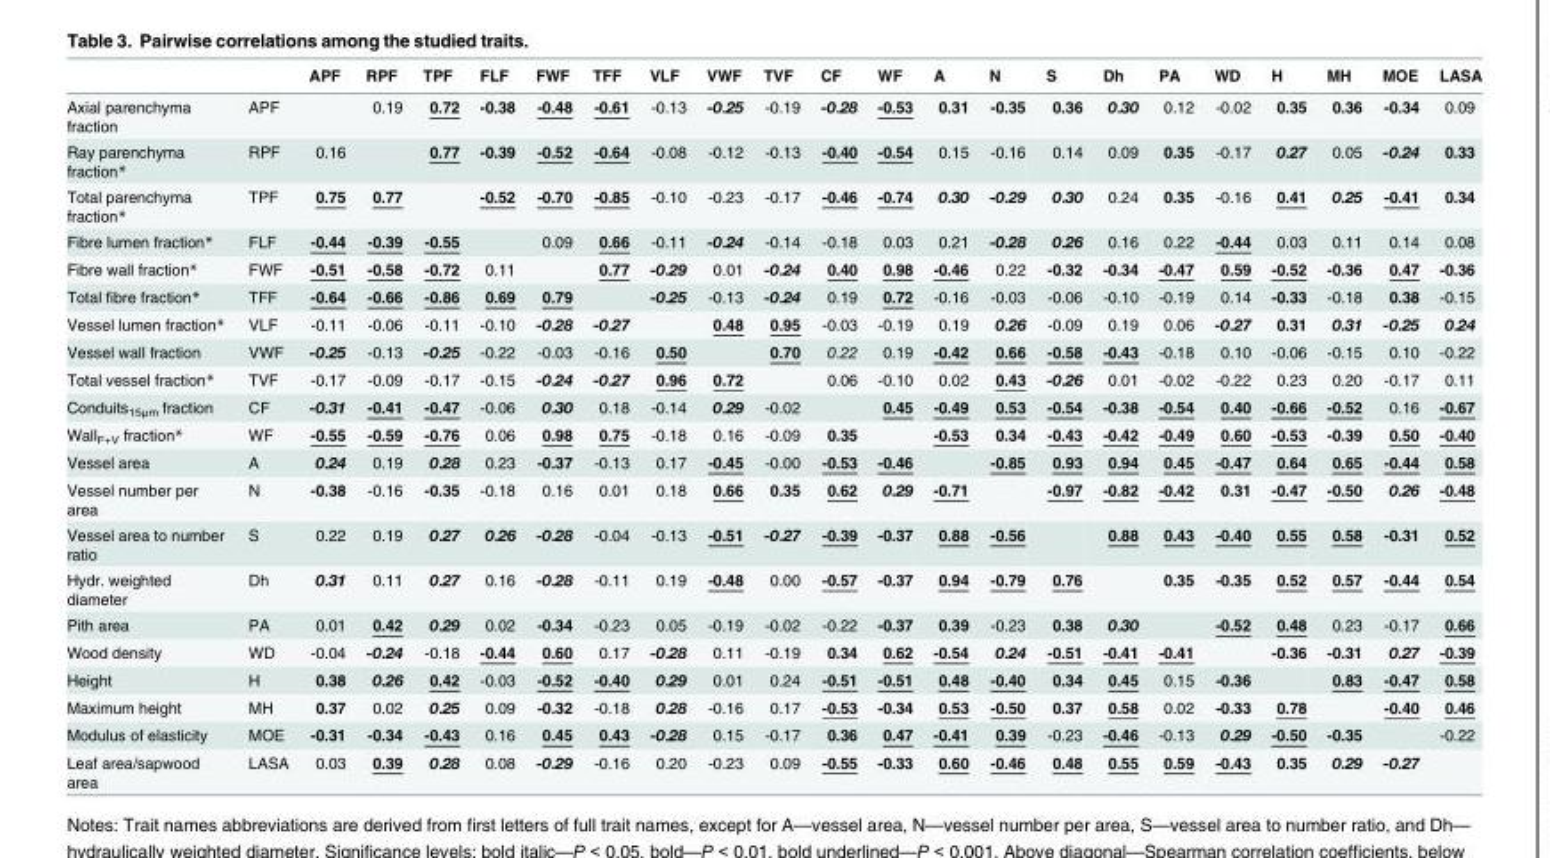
<table><thead><tr><td></td><td></td><td>APF</td><td>RPF</td><td>TPF</td><td>FLF</td><td>FWF</td><td>TFF</td><td>VLF</td><td>VWF</td><td>TVF</td><td>CF</td><td>WF</td><td>A</td><td>N</td><td>S</td><td>Dh</td><td>PA</td><td>WD</td><td>H</td><td>MH</td><td>MOE</td><td>LASA</td></tr></thead><tbody><tr><td>Axial parenchyma fraction</td><td>APF</td><td></td><td>0.19</td><td>0.72</td><td>-0.38</td><td>-0.48</td><td>-0.61</td><td>-0.13</td><td>-0.25</td><td>-0.19</td><td>-0.28</td><td>-0.53</td><td>0.31</td><td>-0.35</td><td>0.36</td><td>0.30</td><td>0.12</td><td>-0.02</td><td>0.35</td><td>0.36</td><td>-0.34</td><td>0.09</td></tr><tr><td>Ray parenchyma fraction*</td><td>RPF</td><td>0.16</td><td></td><td>0.77</td><td>-0.39</td><td>-0.52</td><td>-0.64</td><td>-0.08</td><td>-0.12</td><td>-0.13</td><td>-0.40</td><td>-0.54</td><td>0.15</td><td>-0.16</td><td>0.14</td><td>0.09</td><td>0.35</td><td>-0.17</td><td>0.27</td><td>0.05</td><td>-0.24</td><td>0.33</td></tr><tr><td>Total parenchyma fraction*</td><td>TPF</td><td>0.75</td><td>0.77</td><td></td><td>-0.52</td><td>-0.70</td><td>-0.85</td><td>-0.10</td><td>-0.23</td><td>-0.17</td><td>-0.46</td><td>-0.74</td><td>0.30</td><td>-0.29</td><td>0.30</td><td>0.24</td><td>0.35</td><td>-0.16</td><td>0.41</td><td>0.25</td><td>-0.41</td><td>0.34</td></tr><tr><td>Fibre lumen fraction*</td><td>FLF</td><td>-0.44</td><td>-0.39</td><td>-0.55</td><td></td><td>0.09</td><td>0.66</td><td>-0.11</td><td>-0.24</td><td>-0.14</td><td>-0.18</td><td>0.03</td><td>0.21</td><td>-0.28</td><td>0.26</td><td>0.16</td><td>0.22</td><td>-0.44</td><td>0.03</td><td>0.11</td><td>0.14</td><td>0.08</td></tr><tr><td>Fibre wall fraction*</td><td>FWF</td><td>-0.51</td><td>-0.58</td><td>-0.72</td><td>0.11</td><td></td><td>0.77</td><td>-0.29</td><td>0.01</td><td>-0.24</td><td>0.40</td><td>0.98</td><td>-0.46</td><td>0.22</td><td>-0.32</td><td>-0.34</td><td>-0.47</td><td>0.59</td><td>-0.52</td><td>-0.36</td><td>0.47</td><td>-0.36</td></tr><tr><td>Total fibre fraction*</td><td>TFF</td><td>-0.64</td><td>-0.66</td><td>-0.86</td><td>0.69</td><td>0.79</td><td></td><td>-0.25</td><td>-0.13</td><td>-0.24</td><td>0.19</td><td>0.72</td><td>-0.16</td><td>-0.03</td><td>-0.06</td><td>-0.10</td><td>-0.19</td><td>0.14</td><td>-0.33</td><td>-0.18</td><td>0.38</td><td>-0.15</td></tr><tr><td>Vessel lumen fraction*</td><td>VLF</td><td>-0.11</td><td>-0.06</td><td>-0.11</td><td>-0.10</td><td>-0.28</td><td>-0.27</td><td></td><td>0.48</td><td>0.95</td><td>-0.03</td><td>-0.19</td><td>0.19</td><td>0.26</td><td>-0.09</td><td>0.19</td><td>0.06</td><td>-0.27</td><td>0.31</td><td>0.31</td><td>-0.25</td><td>0.24</td></tr><tr><td>Vessel wall fraction</td><td>VWF</td><td>-0.25</td><td>-0.13</td><td>-0.25</td><td>-0.22</td><td>-0.03</td><td>-0.16</td><td>0.50</td><td></td><td>0.70</td><td>0.22</td><td>0.19</td><td>-0.42</td><td>0.66</td><td>-0.58</td><td>-0.43</td><td>-0.18</td><td>0.10</td><td>-0.06</td><td>-0.15</td><td>0.10</td><td>-0.22</td></tr><tr><td>Total vessel fraction*</td><td>TVF</td><td>-0.17</td><td>-0.09</td><td>-0.17</td><td>-0.15</td><td>-0.24</td><td>-0.27</td><td>0.96</td><td>0.72</td><td></td><td>0.06</td><td>-0.10</td><td>0.02</td><td>0.43</td><td>-0.26</td><td>0.01</td><td>-0.02</td><td>-0.22</td><td>0.23</td><td>0.20</td><td>-0.17</td><td>0.11</td></tr><tr><td>Conduits<sub>15μm</sub> fraction</td><td>CF</td><td>-0.31</td><td>-0.41</td><td>-0.47</td><td>-0.06</td><td>0.30</td><td>0.18</td><td>-0.14</td><td>0.29</td><td>-0.02</td><td></td><td>0.45</td><td>-0.49</td><td>0.53</td><td>-0.54</td><td>-0.38</td><td>-0.54</td><td>0.40</td><td>-0.66</td><td>-0.52</td><td>0.16</td><td>-0.67</td></tr><tr><td>Wall<sub>F+V</sub> fraction*</td><td>WF</td><td>-0.55</td><td>-0.59</td><td>-0.76</td><td>0.06</td><td>0.98</td><td>0.75</td><td>-0.18</td><td>0.16</td><td>-0.09</td><td>0.35</td><td></td><td>-0.53</td><td>0.34</td><td>-0.43</td><td>-0.42</td><td>-0.49</td><td>0.60</td><td>-0.53</td><td>-0.39</td><td>0.50</td><td>-0.40</td></tr><tr><td>Vessel area</td><td>A</td><td>0.24</td><td>0.19</td><td>0.28</td><td>0.23</td><td>-0.37</td><td>-0.13</td><td>0.17</td><td>-0.45</td><td>-0.00</td><td>-0.53</td><td>-0.46</td><td></td><td>-0.85</td><td>0.93</td><td>0.94</td><td>0.45</td><td>-0.47</td><td>0.64</td><td>0.65</td><td>-0.44</td><td>0.58</td></tr><tr><td>Vessel number per area</td><td>N</td><td>-0.38</td><td>-0.16</td><td>-0.35</td><td>-0.18</td><td>0.16</td><td>0.01</td><td>0.18</td><td>0.66</td><td>0.35</td><td>0.62</td><td>0.29</td><td>-0.71</td><td></td><td>-0.97</td><td>-0.82</td><td>-0.42</td><td>0.31</td><td>-0.47</td><td>-0.50</td><td>0.26</td><td>-0.48</td></tr><tr><td>Vessel area to number ratio</td><td>S</td><td>0.22</td><td>0.19</td><td>0.27</td><td>0.26</td><td>-0.28</td><td>-0.04</td><td>-0.13</td><td>-0.51</td><td>-0.27</td><td>-0.39</td><td>-0.37</td><td>0.88</td><td>-0.56</td><td></td><td>0.88</td><td>0.43</td><td>-0.40</td><td>0.55</td><td>0.58</td><td>-0.31</td><td>0.52</td></tr><tr><td>Hydr. weighted diameter</td><td>Dh</td><td>0.31</td><td>0.11</td><td>0.27</td><td>0.16</td><td>-0.28</td><td>-0.11</td><td>0.19</td><td>-0.48</td><td>0.00</td><td>-0.57</td><td>-0.37</td><td>0.94</td><td>-0.79</td><td>0.76</td><td></td><td>0.35</td><td>-0.35</td><td>0.52</td><td>0.57</td><td>-0.44</td><td>0.54</td></tr><tr><td>Pith area</td><td>PA</td><td>0.01</td><td>0.42</td><td>0.29</td><td>0.02</td><td>-0.34</td><td>-0.23</td><td>0.05</td><td>-0.19</td><td>-0.02</td><td>-0.22</td><td>-0.37</td><td>0.39</td><td>-0.23</td><td>0.38</td><td>0.30</td><td></td><td>-0.52</td><td>0.48</td><td>0.23</td><td>-0.17</td><td>0.66</td></tr><tr><td>Wood density</td><td>WD</td><td>-0.04</td><td>-0.24</td><td>-0.18</td><td>-0.44</td><td>0.60</td><td>0.17</td><td>-0.28</td><td>0.11</td><td>-0.19</td><td>0.34</td><td>0.62</td><td>-0.54</td><td>0.24</td><td>-0.51</td><td>-0.41</td><td>-0.41</td><td></td><td>-0.36</td><td>-0.31</td><td>0.27</td><td>-0.39</td></tr><tr><td>Height</td><td>H</td><td>0.38</td><td>0.26</td><td>0.42</td><td>-0.03</td><td>-0.52</td><td>-0.40</td><td>0.29</td><td>0.01</td><td>0.24</td><td>-0.51</td><td>-0.51</td><td>0.48</td><td>-0.40</td><td>0.34</td><td>0.45</td><td>0.15</td><td>-0.36</td><td></td><td>0.83</td><td>-0.47</td><td>0.58</td></tr><tr><td>Maximum height</td><td>MH</td><td>0.37</td><td>0.02</td><td>0.25</td><td>0.09</td><td>-0.32</td><td>-0.18</td><td>0.28</td><td>-0.16</td><td>0.17</td><td>-0.53</td><td>-0.34</td><td>0.53</td><td>-0.50</td><td>0.37</td><td>0.58</td><td>0.02</td><td>-0.33</td><td>0.78</td><td></td><td>-0.40</td><td>0.46</td></tr><tr><td>Modulus of elasticity</td><td>MOE</td><td>-0.31</td><td>-0.34</td><td>-0.43</td><td>0.16</td><td>0.45</td><td>0.43</td><td>-0.28</td><td>0.15</td><td>-0.17</td><td>0.36</td><td>0.47</td><td>-0.41</td><td>0.39</td><td>-0.23</td><td>-0.46</td><td>-0.13</td><td>0.29</td><td>-0.50</td><td>-0.35</td><td></td><td>-0.22</td></tr><tr><td>Leaf area/sapwood area</td><td>LASA</td><td>0.03</td><td>0.39</td><td>0.28</td><td>0.08</td><td>-0.29</td><td>-0.16</td><td>0.20</td><td>-0.23</td><td>0.09</td><td>-0.55</td><td>-0.33</td><td>0.60</td><td>-0.46</td><td>0.48</td><td>0.55</td><td>0.59</td><td>-0.43</td><td>0.35</td><td>0.29</td><td>-0.27</td><td></td></tr></tbody></table>